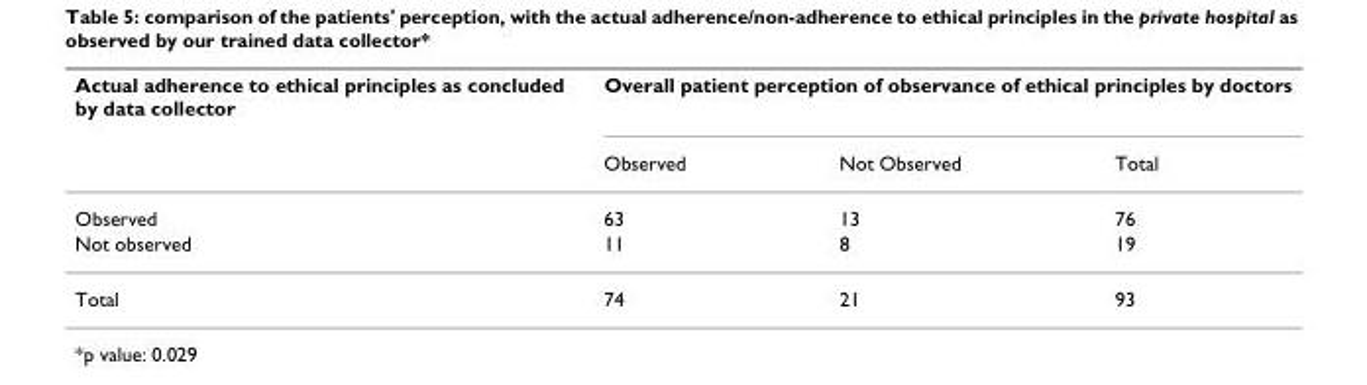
<table><thead><tr><td rowspan="2">Actual adherence to ethical principles as concluded by data collector</td><td colspan="3">Overall patient perception of observance of ethical principles by doctors</td></tr><tr><td>Observed</td><td>Not Observed</td><td>Total</td></tr></thead><tbody><tr><td>Observed</td><td>63</td><td>13</td><td>76</td></tr><tr><td>Not observed</td><td>11</td><td>8</td><td>19</td></tr><tr><td>Total</td><td>74</td><td>21</td><td>93</td></tr></tbody></table>